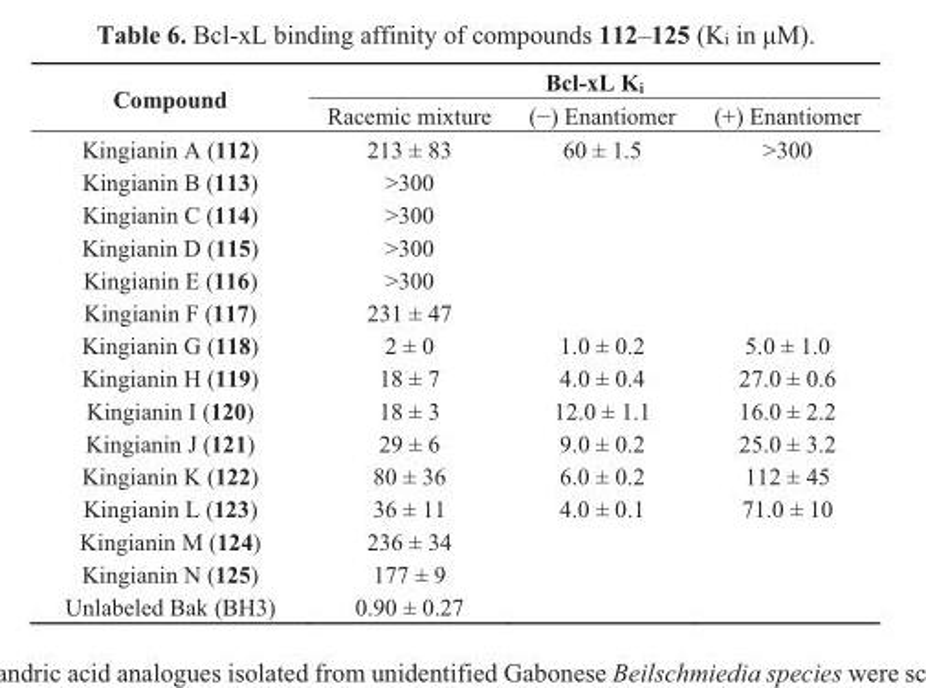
<table><thead><tr><td rowspan="2">Compound</td><td colspan="3">Bcl-xL K<sub>i</sub></td></tr><tr><td>Racemic mixture</td><td>(−) Enantiomer</td><td>(+) Enantiomer</td></tr></thead><tbody><tr><td>Kingianin A (112)</td><td>213 ± 83</td><td>60 ± 1.5</td><td>&gt;300</td></tr><tr><td>Kingianin B (113)</td><td>&gt;300</td><td></td><td></td></tr><tr><td>Kingianin C (114)</td><td>&gt;300</td><td></td><td></td></tr><tr><td>Kingianin D (115)</td><td>&gt;300</td><td></td><td></td></tr><tr><td>Kingianin E (116)</td><td>&gt;300</td><td></td><td></td></tr><tr><td>Kingianin F (117)</td><td>231 ± 47</td><td></td><td></td></tr><tr><td>Kingianin G (118)</td><td>2 ± 0</td><td>1.0 ± 0.2</td><td>5.0 ± 1.0</td></tr><tr><td>Kingianin H (119)</td><td>18 ± 7</td><td>4.0 ± 0.4</td><td>27.0 ± 0.6</td></tr><tr><td>Kingianin I (120)</td><td>18 ± 3</td><td>12.0 ± 1.1</td><td>16.0 ± 2.2</td></tr><tr><td>Kingianin J (121)</td><td>29 ± 6</td><td>9.0 ± 0.2</td><td>25.0 ± 3.2</td></tr><tr><td>Kingianin K (122)</td><td>80 ± 36</td><td>6.0 ± 0.2</td><td>112 ± 45</td></tr><tr><td>Kingianin L (123)</td><td>36 ± 11</td><td>4.0 ± 0.1</td><td>71.0 ± 10</td></tr><tr><td>Kingianin M (124)</td><td>236 ± 34</td><td></td><td></td></tr><tr><td>Kingianin N (125)</td><td>177 ± 9</td><td></td><td></td></tr><tr><td>Unlabeled Bak (BH3)</td><td>0.90 ± 0.27</td><td></td><td></td></tr></tbody></table>